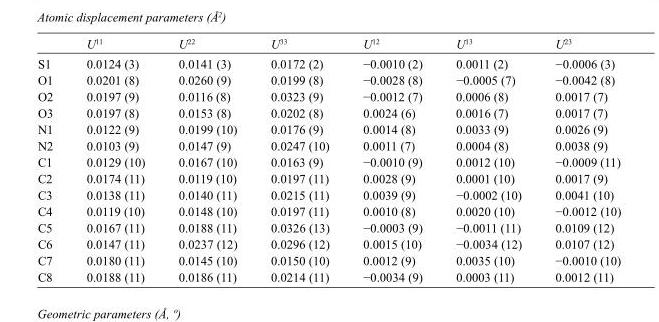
<table><thead><tr><td></td><td>U<sup>11</sup></td><td>U<sup>22</sup></td><td>U<sup>33</sup></td><td>U<sup>12</sup></td><td>U<sup>13</sup></td><td>U<sup>23</sup></td></tr></thead><tbody><tr><td>S1</td><td>0.0124 (3)</td><td>0.0141 (3)</td><td>0.0172 (2)</td><td>−0.0010 (2)</td><td>0.0011 (2)</td><td>−0.0006 (3)</td></tr><tr><td>O1</td><td>0.0201 (8)</td><td>0.0260 (9)</td><td>0.0199 (8)</td><td>−0.0028 (8)</td><td>−0.0005 (7)</td><td>−0.0042 (8)</td></tr><tr><td>O2</td><td>0.0197 (9)</td><td>0.0116 (8)</td><td>0.0323 (9)</td><td>−0.0012 (7)</td><td>0.0006 (8)</td><td>0.0017 (7)</td></tr><tr><td>O3</td><td>0.0197 (8)</td><td>0.0153 (8)</td><td>0.0202 (8)</td><td>0.0024 (6)</td><td>0.0016 (7)</td><td>0.0017 (7)</td></tr><tr><td>N1</td><td>0.0122 (9)</td><td>0.0199 (10)</td><td>0.0176 (9)</td><td>0.0014 (8)</td><td>0.0033 (9)</td><td>0.0026 (9)</td></tr><tr><td>N2</td><td>0.0103 (9)</td><td>0.0147 (9)</td><td>0.0247 (10)</td><td>0.0011 (7)</td><td>0.0004 (8)</td><td>0.0038 (9)</td></tr><tr><td>C1</td><td>0.0129 (10)</td><td>0.0167 (10)</td><td>0.0163 (9)</td><td>−0.0010 (9)</td><td>0.0012 (10)</td><td>−0.0009 (11)</td></tr><tr><td>C2</td><td>0.0174 (11)</td><td>0.0119 (10)</td><td>0.0197 (11)</td><td>0.0028 (9)</td><td>0.0001 (10)</td><td>0.0017 (9)</td></tr><tr><td>C3</td><td>0.0138 (11)</td><td>0.0140 (11)</td><td>0.0215 (11)</td><td>0.0039 (9)</td><td>−0.0002 (10)</td><td>0.0041 (10)</td></tr><tr><td>C4</td><td>0.0119 (10)</td><td>0.0148 (10)</td><td>0.0197 (11)</td><td>0.0010 (8)</td><td>0.0020 (10)</td><td>−0.0012 (10)</td></tr><tr><td>C5</td><td>0.0167 (11)</td><td>0.0188 (11)</td><td>0.0326 (13)</td><td>−0.0003 (9)</td><td>−0.0011 (11)</td><td>0.0109 (12)</td></tr><tr><td>C6</td><td>0.0147 (11)</td><td>0.0237 (12)</td><td>0.0296 (12)</td><td>0.0015 (10)</td><td>−0.0034 (12)</td><td>0.0107 (12)</td></tr><tr><td>C7</td><td>0.0180 (11)</td><td>0.0145 (10)</td><td>0.0150 (10)</td><td>0.0012 (9)</td><td>0.0035 (10)</td><td>−0.0010 (10)</td></tr><tr><td>C8</td><td>0.0188 (11)</td><td>0.0186 (11)</td><td>0.0214 (11)</td><td>−0.0034 (9)</td><td>0.0003 (11)</td><td>0.0012 (11)</td></tr></tbody></table>